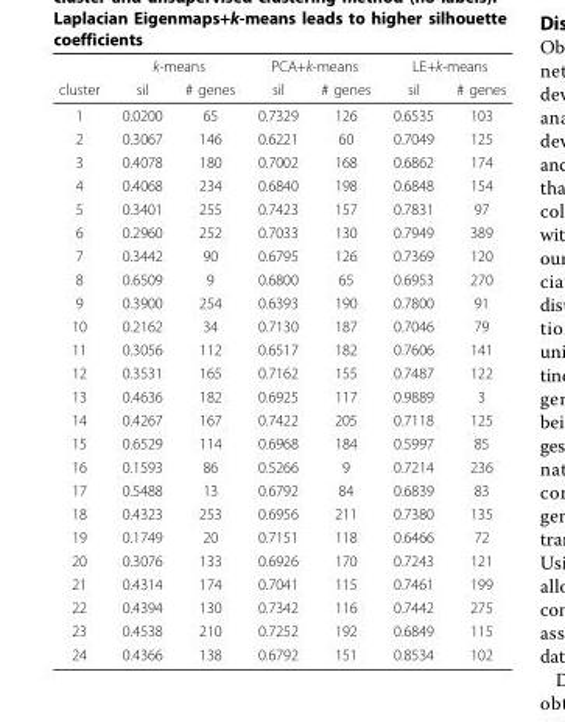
<table><thead><tr><td rowspan="2">cluster</td><td colspan="2">k-means</td><td colspan="2">PCA+k-means</td><td colspan="2">LE+k-means</td></tr><tr><td>sil</td><td># genes</td><td>sil</td><td># genes</td><td>sil</td><td># genes</td></tr></thead><tbody><tr><td>1</td><td>0.0200</td><td>65</td><td>0.7329</td><td>126</td><td>0.6535</td><td>103</td></tr><tr><td>2</td><td>0.3067</td><td>146</td><td>0.6221</td><td>60</td><td>0.7049</td><td>125</td></tr><tr><td>3</td><td>0.4078</td><td>180</td><td>0.7002</td><td>168</td><td>0.6862</td><td>174</td></tr><tr><td>4</td><td>0.4068</td><td>234</td><td>0.6840</td><td>198</td><td>0.6848</td><td>154</td></tr><tr><td>5</td><td>0.3401</td><td>255</td><td>0.7423</td><td>157</td><td>0.7831</td><td>97</td></tr><tr><td>6</td><td>0.2960</td><td>252</td><td>0.7033</td><td>130</td><td>0.7949</td><td>389</td></tr><tr><td>7</td><td>0.3442</td><td>90</td><td>0.6795</td><td>126</td><td>0.7369</td><td>120</td></tr><tr><td>8</td><td>0.6509</td><td>9</td><td>0.6800</td><td>65</td><td>0.6953</td><td>270</td></tr><tr><td>9</td><td>0.3900</td><td>254</td><td>0.6393</td><td>190</td><td>0.7800</td><td>91</td></tr><tr><td>10</td><td>0.2162</td><td>34</td><td>0.7130</td><td>187</td><td>0.7046</td><td>79</td></tr><tr><td>11</td><td>0.3056</td><td>112</td><td>0.6517</td><td>182</td><td>0.7606</td><td>141</td></tr><tr><td>12</td><td>0.3531</td><td>165</td><td>0.7162</td><td>155</td><td>0.7487</td><td>122</td></tr><tr><td>13</td><td>0.4636</td><td>182</td><td>0.6925</td><td>117</td><td>0.9889</td><td>3</td></tr><tr><td>14</td><td>0.4267</td><td>167</td><td>0.7422</td><td>205</td><td>0.7118</td><td>125</td></tr><tr><td>15</td><td>0.6529</td><td>114</td><td>0.6968</td><td>184</td><td>0.5997</td><td>85</td></tr><tr><td>16</td><td>0.1593</td><td>86</td><td>0.5266</td><td>9</td><td>0.7214</td><td>236</td></tr><tr><td>17</td><td>0.5488</td><td>13</td><td>0.6792</td><td>84</td><td>0.6839</td><td>83</td></tr><tr><td>18</td><td>0.4323</td><td>253</td><td>0.6956</td><td>211</td><td>0.7380</td><td>135</td></tr><tr><td>19</td><td>0.1749</td><td>20</td><td>0.7151</td><td>118</td><td>0.6466</td><td>72</td></tr><tr><td>20</td><td>0.3076</td><td>133</td><td>0.6926</td><td>170</td><td>0.7243</td><td>121</td></tr><tr><td>21</td><td>0.4314</td><td>174</td><td>0.7041</td><td>115</td><td>0.7461</td><td>199</td></tr><tr><td>22</td><td>0.4394</td><td>130</td><td>0.7342</td><td>116</td><td>0.7442</td><td>275</td></tr><tr><td>23</td><td>0.4538</td><td>210</td><td>0.7252</td><td>192</td><td>0.6849</td><td>115</td></tr><tr><td>24</td><td>0.4366</td><td>138</td><td>0.6792</td><td>151</td><td>0.8534</td><td>102</td></tr></tbody></table>